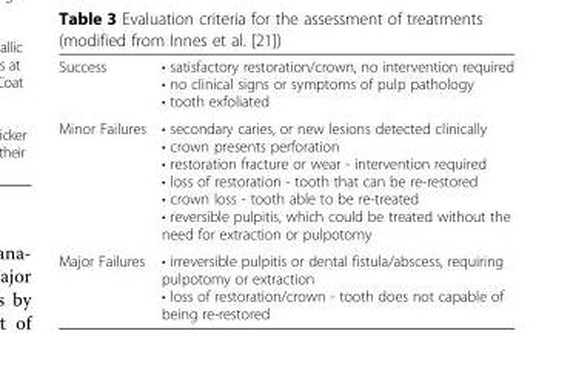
<table><tbody><tr><td>Success</td><td>• satisfactory restoration/crown, no intervention required • no clinical signs or symptoms of pulp pathology • tooth exfoliated</td></tr><tr><td>Minor Failures</td><td>• secondary caries, or new lesions detected clinically • crown presents perforation • restoration fracture or wear - intervention required • loss of restoration - tooth that can be re-restored • crown loss - tooth able to be re-treated • reversible pulpitis, which could be treated without the need for extraction or pulpotomy</td></tr><tr><td>Major Failures</td><td>• irreversible pulpitis or dental fistula/abscess, requiring pulpotomy or extraction • loss of restoration/crown - tooth does not capable of being re-restored</td></tr></tbody></table>